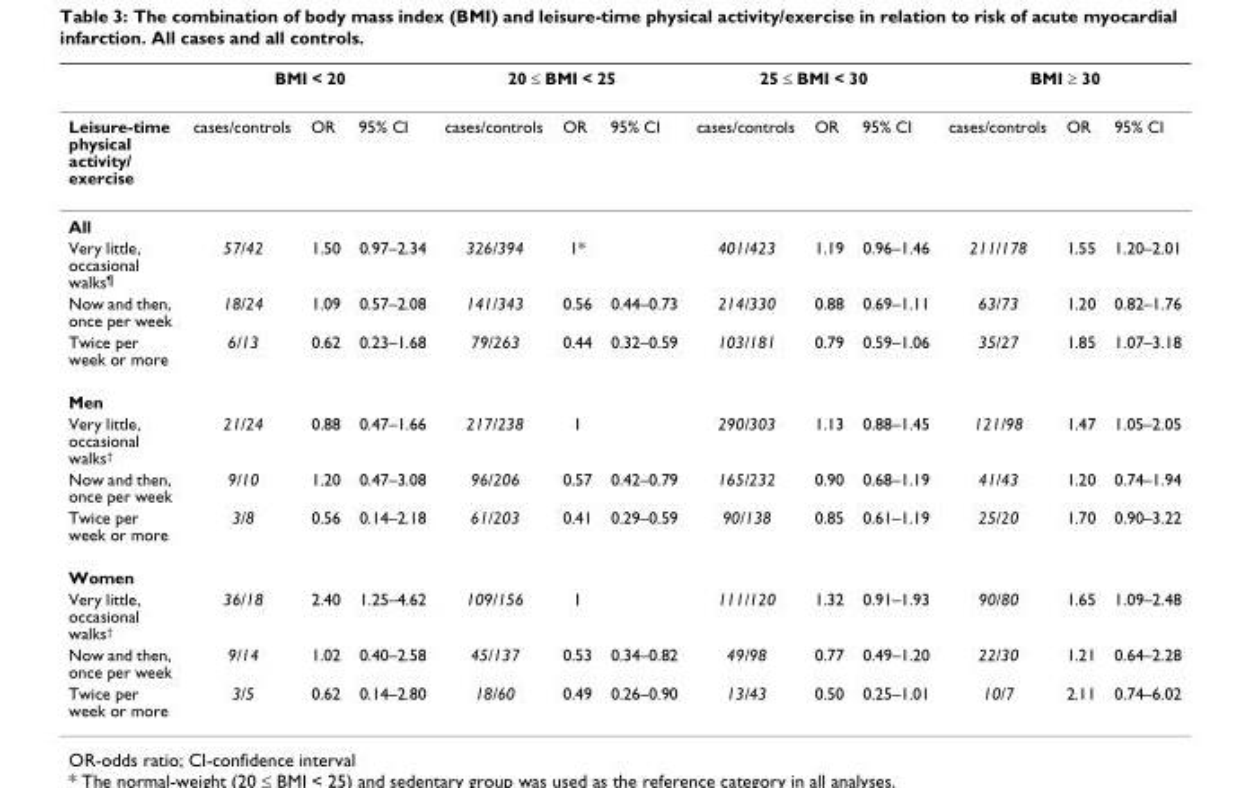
<table><thead><tr><td rowspan="2">Leisure-time physical activity/ exercise</td><td colspan="3">BMI &lt; 20</td><td colspan="3">20 ≤ BMI &lt; 25</td><td colspan="3">25 ≤ BMI &lt; 30</td><td colspan="3">BMI ≥ 30</td></tr><tr><td>cases/controls</td><td>OR</td><td>95% CI</td><td>cases/controls</td><td>OR</td><td>95% CI</td><td>cases/controls</td><td>OR</td><td>95% CI</td><td>cases/controls</td><td>OR</td><td>95% CI</td></tr></thead><tbody><tr><td colspan="13">All</td></tr><tr><td>Very little, occasional walks¶</td><td>57/42</td><td>1.50</td><td>0.97–2.34</td><td>326/394</td><td>1*</td><td></td><td>401/423</td><td>1.19</td><td>0.96–1.46</td><td>211/178</td><td>1.55</td><td>1.20–2.01</td></tr><tr><td>Now and then, once per week</td><td>18/24</td><td>1.09</td><td>0.57–2.08</td><td>141/343</td><td>0.56</td><td>0.44–0.73</td><td>214/330</td><td>0.88</td><td>0.69–1.11</td><td>63/73</td><td>1.20</td><td>0.82–1.76</td></tr><tr><td>Twice per week or more</td><td>6/13</td><td>0.62</td><td>0.23–1.68</td><td>79/263</td><td>0.44</td><td>0.32–0.59</td><td>103/181</td><td>0.79</td><td>0.59–1.06</td><td>35/27</td><td>1.85</td><td>1.07–3.18</td></tr><tr><td colspan="13">Men</td></tr><tr><td>Very little, occasional walks†</td><td>21/24</td><td>0.88</td><td>0.47–1.66</td><td>217/238</td><td>1</td><td></td><td>290/303</td><td>1.13</td><td>0.88–1.45</td><td>121/98</td><td>1.47</td><td>1.05–2.05</td></tr><tr><td>Now and then, once per week</td><td>9/10</td><td>1.20</td><td>0.47–3.08</td><td>96/206</td><td>0.57</td><td>0.42–0.79</td><td>165/232</td><td>0.90</td><td>0.68–1.19</td><td>41/43</td><td>1.20</td><td>0.74–1.94</td></tr><tr><td>Twice per week or more</td><td>3/8</td><td>0.56</td><td>0.14–2.18</td><td>61/203</td><td>0.41</td><td>0.29–0.59</td><td>90/138</td><td>0.85</td><td>0.61–1.19</td><td>25/20</td><td>1.70</td><td>0.90–3.22</td></tr><tr><td colspan="13">Women</td></tr><tr><td>Very little, occasional walks†</td><td>36/18</td><td>2.40</td><td>1.25–4.62</td><td>109/156</td><td>1</td><td></td><td>111/120</td><td>1.32</td><td>0.91–1.93</td><td>90/80</td><td>1.65</td><td>1.09–2.48</td></tr><tr><td>Now and then, once per week</td><td>9/14</td><td>1.02</td><td>0.40–2.58</td><td>45/137</td><td>0.53</td><td>0.34–0.82</td><td>49/98</td><td>0.77</td><td>0.49–1.20</td><td>22/30</td><td>1.21</td><td>0.64–2.28</td></tr><tr><td>Twice per week or more</td><td>3/5</td><td>0.62</td><td>0.14–2.80</td><td>18/60</td><td>0.49</td><td>0.26–0.90</td><td>13/43</td><td>0.50</td><td>0.25–1.01</td><td>10/7</td><td>2.11</td><td>0.74–6.02</td></tr></tbody></table>